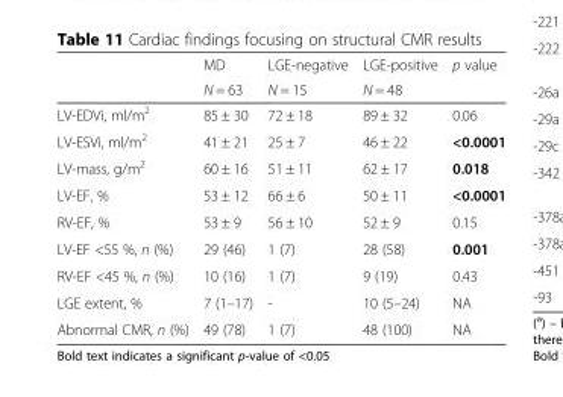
<table><thead><tr><td rowspan="2"></td><td rowspan="2">MD N = 63</td><td rowspan="2">LGE-negative N = 15</td><td rowspan="2">LGE-positive N = 48</td><td rowspan="2">p value</td></tr><tr></tr></thead><tbody><tr><td>LV-EDVi, ml/m<sup>2</sup></td><td>85 ± 30</td><td>72 ± 18</td><td>89 ± 32</td><td>0.06</td></tr><tr><td>LV-ESVi, ml/m<sup>2</sup></td><td>41 ± 21</td><td>25 ± 7</td><td>46 ± 22</td><td>&lt;0.0001</td></tr><tr><td>LV-mass, g/m<sup>2</sup></td><td>60 ± 16</td><td>51 ± 11</td><td>62 ± 17</td><td>0.018</td></tr><tr><td>LV-EF, %</td><td>53 ± 12</td><td>66 ± 6</td><td>50 ± 11</td><td>&lt;0.0001</td></tr><tr><td>RV-EF, %</td><td>53 ± 9</td><td>56 ± 10</td><td>52 ± 9</td><td>0.15</td></tr><tr><td>LV-EF &lt;55 %, n (%)</td><td>29 (46)</td><td>1 (7)</td><td>28 (58)</td><td>0.001</td></tr><tr><td>RV-EF &lt;45 %, n (%)</td><td>10 (16)</td><td>1 (7)</td><td>9 (19)</td><td>0.43</td></tr><tr><td>LGE extent, %</td><td>7 (1–17)</td><td>-</td><td>10 (5–24)</td><td>NA</td></tr><tr><td>Abnormal CMR, n (%)</td><td>49 (78)</td><td>1 (7)</td><td>48 (100)</td><td>NA</td></tr></tbody></table>